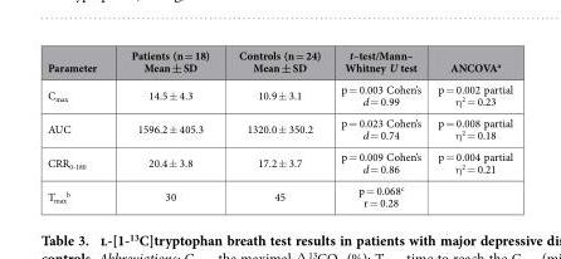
<table><thead><tr><td>Parameter</td><td>Patients (n = 18) Mean ± SD</td><td>Controls (n = 24) Mean ± SD</td><td>t–test/Mann– Whitney U test</td><td>ANCOVA<sup>a</sup></td></tr></thead><tbody><tr><td>C<sub>max</sub></td><td>14.5 ± 4.3</td><td>10.9 ± 3.1</td><td>p = 0.003 Cohen’s d = 0.99</td><td>p = 0.002 partial η <sup>2</sup> = 0.23</td></tr><tr><td>AUC</td><td>1596.2 ± 405.3</td><td>1320.0 ± 350.2</td><td>p = 0.023 Cohen’s d = 0.74</td><td>p = 0.008 partial η <sup>2</sup> = 0.18</td></tr><tr><td>CRR<sub>0-180</sub></td><td>20.4 ± 3.8</td><td>17.2 ± 3.7</td><td>p = 0.009 Cohen’s d = 0.86</td><td>p = 0.004 partial η <sup>2</sup> = 0.21</td></tr><tr><td>T<sub>max</sub> <sup>b</sup></td><td>30</td><td>45</td><td>p = 0.068<sup>c</sup> r = 0.28</td><td></td></tr></tbody></table>